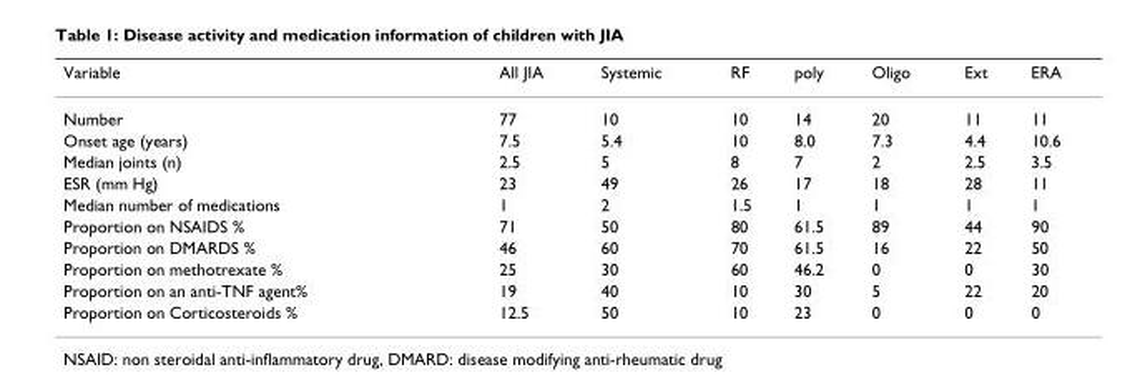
<table><thead><tr><td>Variable</td><td>All JIA</td><td>Systemic</td><td>RF</td><td>poly</td><td>Oligo</td><td>Ext</td><td>ERA</td></tr></thead><tbody><tr><td>Number</td><td>77</td><td>10</td><td>10</td><td>14</td><td>20</td><td>11</td><td>11</td></tr><tr><td>Onset age (years)</td><td>7.5</td><td>5.4</td><td>10</td><td>8.0</td><td>7.3</td><td>4.4</td><td>10.6</td></tr><tr><td>Median joints (n)</td><td>2.5</td><td>5</td><td>8</td><td>7</td><td>2</td><td>2.5</td><td>3.5</td></tr><tr><td>ESR (mm Hg)</td><td>23</td><td>49</td><td>26</td><td>17</td><td>18</td><td>28</td><td>11</td></tr><tr><td>Median number of medications</td><td>1</td><td>2</td><td>1.5</td><td>1</td><td>1</td><td>1</td><td>1</td></tr><tr><td>Proportion on NSAIDS %</td><td>71</td><td>50</td><td>80</td><td>61.5</td><td>89</td><td>44</td><td>90</td></tr><tr><td>Proportion on DMARDS %</td><td>46</td><td>60</td><td>70</td><td>61.5</td><td>16</td><td>22</td><td>50</td></tr><tr><td>Proportion on methotrexate %</td><td>25</td><td>30</td><td>60</td><td>46.2</td><td>0</td><td>0</td><td>30</td></tr><tr><td>Proportion on an anti-TNF agent%</td><td>19</td><td>40</td><td>10</td><td>30</td><td>5</td><td>22</td><td>20</td></tr><tr><td>Proportion on Corticosteroids %</td><td>12.5</td><td>50</td><td>10</td><td>23</td><td>0</td><td>0</td><td>0</td></tr></tbody></table>